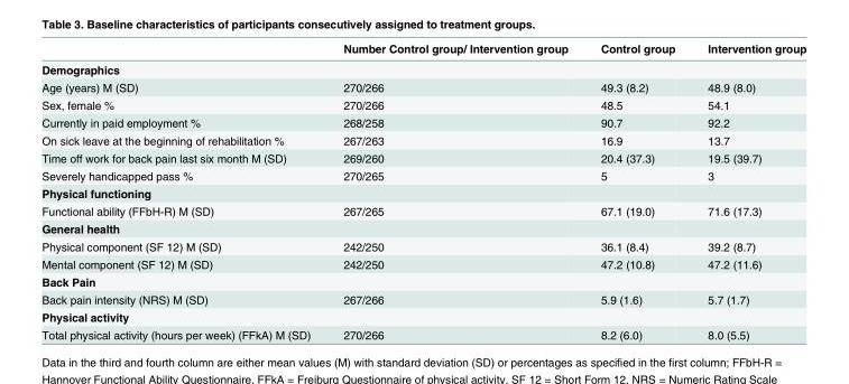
<table><thead><tr><td></td><td>Number Control group/ Intervention group</td><td>Control group</td><td>Intervention group</td></tr></thead><tbody><tr><td colspan="4">Demographics</td></tr><tr><td>Age (years) M (SD)</td><td>270/266</td><td>49.3 (8.2)</td><td>48.9 (8.0)</td></tr><tr><td>Sex, female %</td><td>270/266</td><td>48.5</td><td>54.1</td></tr><tr><td>Currently in paid employment %</td><td>268/258</td><td>90.7</td><td>92.2</td></tr><tr><td>On sick leave at the beginning of rehabilitation %</td><td>267/263</td><td>16.9</td><td>13.7</td></tr><tr><td>Time off work for back pain last six month M (SD)</td><td>269/260</td><td>20.4 (37.3)</td><td>19.5 (39.7)</td></tr><tr><td>Severely handicapped pass %</td><td>270/265</td><td>5</td><td>3</td></tr><tr><td colspan="4">Physical functioning</td></tr><tr><td>Functional ability (FFbH-R) M (SD)</td><td>267/265</td><td>67.1 (19.0)</td><td>71.6 (17.3)</td></tr><tr><td colspan="4">General health</td></tr><tr><td>Physical component (SF 12) M (SD)</td><td>242/250</td><td>36.1 (8.4)</td><td>39.2 (8.7)</td></tr><tr><td>Mental component (SF 12) M (SD)</td><td>242/250</td><td>47.2 (10.8)</td><td>47.2 (11.6)</td></tr><tr><td colspan="4">Back Pain</td></tr><tr><td>Back pain intensity (NRS) M (SD)</td><td>267/266</td><td>5.9 (1.6)</td><td>5.7 (1.7)</td></tr><tr><td colspan="4">Physical activity</td></tr><tr><td>Total physical activity (hours per week) (FFkA) M (SD)</td><td>270/266</td><td>8.2 (6.0)</td><td>8.0 (5.5)</td></tr></tbody></table>